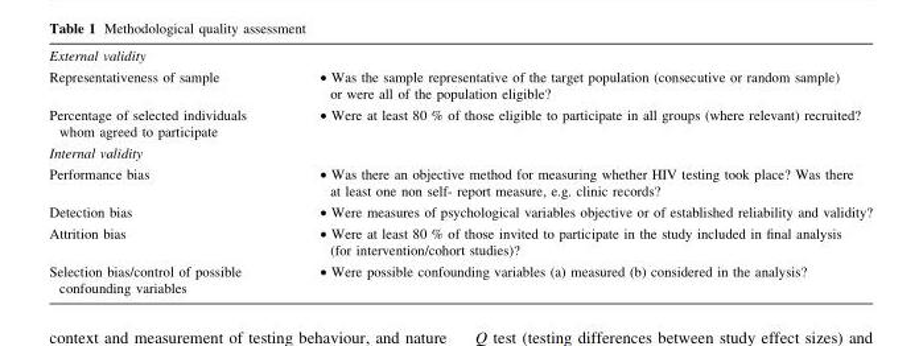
<table><tbody><tr><td colspan="2">External validity</td></tr><tr><td>Representativeness of sample</td><td>• Was the sample representative of the target population (consecutive or random sample) or were all of the population eligible?</td></tr><tr><td>Percentage of selected individuals whom agreed to participate</td><td>• Were at least 80 % of those eligible to participate in all groups (where relevant) recruited?</td></tr><tr><td colspan="2">Internal validity</td></tr><tr><td>Performance bias</td><td>• Was there an objective method for measuring whether HIV testing took place? Was there at least one non self- report measure, e.g. clinic records?</td></tr><tr><td>Detection bias</td><td>• Were measures of psychological variables objective or of established reliability and validity?</td></tr><tr><td>Attrition bias</td><td>• Were at least 80 % of those invited to participate in the study included in final analysis (for intervention/cohort studies)?</td></tr><tr><td>Selection bias/control of possible confounding variables</td><td>• Were possible confounding variables (a) measured (b) considered in the analysis?</td></tr></tbody></table>